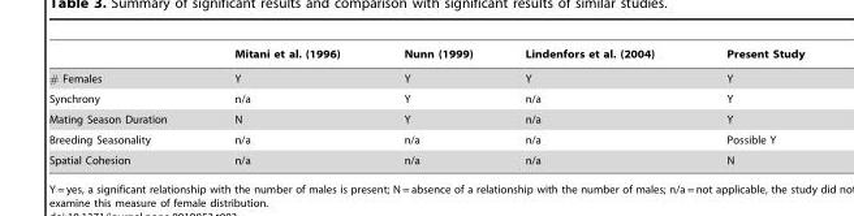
<table><thead><tr><td></td><td>Mitani et al. (1996)</td><td>Nunn (1999)</td><td>Lindenfors et al. (2004)</td><td>Present Study</td></tr></thead><tbody><tr><td># Females</td><td>Y</td><td>Y</td><td>Y</td><td>Y</td></tr><tr><td>Synchrony</td><td>n/a</td><td>Y</td><td>n/a</td><td>Y</td></tr><tr><td>Mating Season Duration</td><td>N</td><td>Y</td><td>n/a</td><td>Y</td></tr><tr><td>Breeding Seasonality</td><td>n/a</td><td>n/a</td><td>n/a</td><td>Possible Y</td></tr><tr><td>Spatial Cohesion</td><td>n/a</td><td>n/a</td><td>n/a</td><td>N</td></tr></tbody></table>